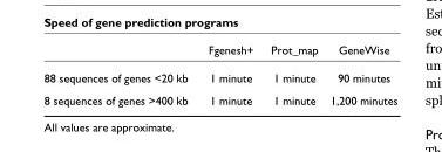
<table><thead><tr><td></td><td>Fgenesh+</td><td>Prot_map</td><td>GeneWise</td></tr></thead><tbody><tr><td>88 sequences of genes &lt;20 kb</td><td>1 minute</td><td>1 minute</td><td>90 minutes</td></tr><tr><td>8 sequences of genes &gt;400 kb</td><td>1 minute</td><td>1 minute</td><td>1,200 minutes</td></tr></tbody></table>